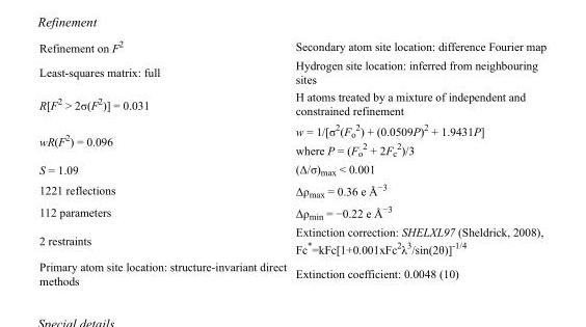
<table><tbody><tr><td>Refinement on F<sup>2</sup></td><td>Secondary atom site location: difference Fourier map</td></tr><tr><td>Least-squares matrix: full</td><td>Hydrogen site location: inferred from neighbouring sites</td></tr><tr><td>R[F<sup>2</sup> &gt; 2σ(F<sup>2</sup>)] = 0.031</td><td>H atoms treated by a mixture of independent and constrained refinement</td></tr><tr><td>wR(F<sup>2</sup>) = 0.096</td><td>w = 1/[σ<sup>2</sup>(F<sub>o</sub> <sup>2</sup>) + (0.0509P)<sup>2</sup> + 1.9431P] where P = (F<sub>o</sub> <sup>2</sup> + 2F<sub>c</sub> <sup>2</sup>)/3</td></tr><tr><td>S = 1.09</td><td>(Δ/σ)<sub>max</sub> &lt; 0.001</td></tr><tr><td>1221 reflections</td><td>Δρ<sub>max</sub> = 0.36 e Å<sup>−3</sup></td></tr><tr><td>112 parameters</td><td>Δρ<sub>min</sub> = −0.22 e Å<sup>−3</sup></td></tr><tr><td>2 restraints</td><td>Extinction correction: SHELXL97 (Sheldrick, 2008), Fc*=kFc[1+0.001xFc<sup>2</sup>λ<sup>3</sup>/sin(2θ)]<sup>-1/4</sup></td></tr><tr><td>Primary atom site location: structure-invariant direct methods</td><td>Extinction coefficient: 0.0048 (10)</td></tr></tbody></table>